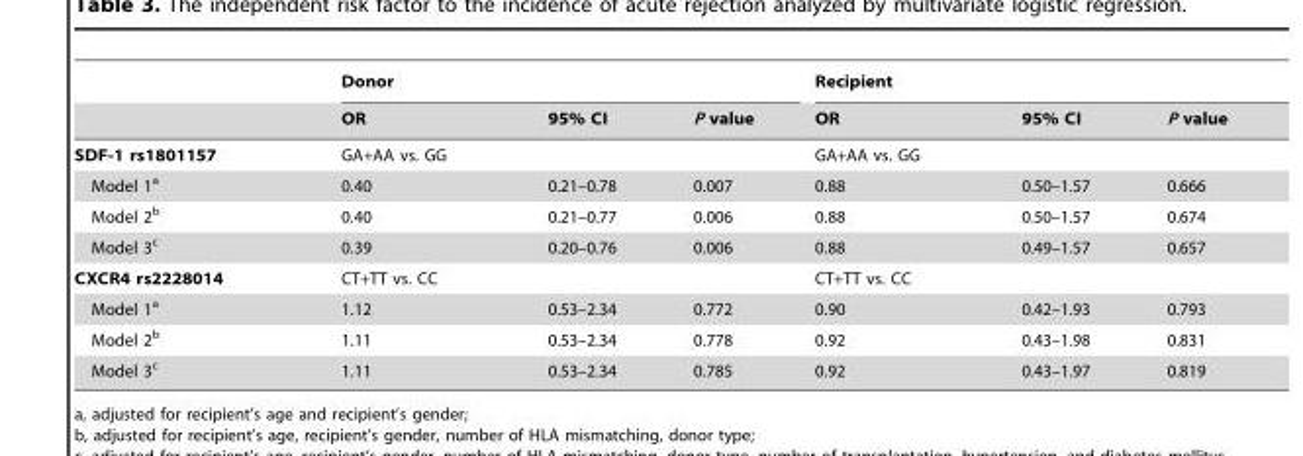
<table><thead><tr><td rowspan="2"></td><td colspan="3">Donor</td><td colspan="3">Recipient</td></tr><tr><td>OR</td><td>95% CI</td><td>P value</td><td>OR</td><td>95% CI</td><td>P value</td></tr></thead><tbody><tr><td>SDF-1 rs1801157</td><td>GA+AA vs. GG</td><td></td><td></td><td>GA+AA vs. GG</td><td></td><td></td></tr><tr><td>Model 1<sup>a</sup></td><td>0.40</td><td>0.21–0.78</td><td>0.007</td><td>0.88</td><td>0.50–1.57</td><td>0.666</td></tr><tr><td>Model 2<sup>b</sup></td><td>0.40</td><td>0.21–0.77</td><td>0.006</td><td>0.88</td><td>0.50–1.57</td><td>0.674</td></tr><tr><td>Model 3<sup>c</sup></td><td>0.39</td><td>0.20–0.76</td><td>0.006</td><td>0.88</td><td>0.49–1.57</td><td>0.657</td></tr><tr><td>CXCR4 rs2228014</td><td>CT+TT vs. CC</td><td></td><td></td><td>CT+TT vs. CC</td><td></td><td></td></tr><tr><td>Model 1<sup>a</sup></td><td>1.12</td><td>0.53–2.34</td><td>0.772</td><td>0.90</td><td>0.42–1.93</td><td>0.793</td></tr><tr><td>Model 2<sup>b</sup></td><td>1.11</td><td>0.53–2.34</td><td>0.778</td><td>0.92</td><td>0.43–1.98</td><td>0.831</td></tr><tr><td>Model 3<sup>c</sup></td><td>1.11</td><td>0.53–2.34</td><td>0.785</td><td>0.92</td><td>0.43–1.97</td><td>0.819</td></tr></tbody></table>